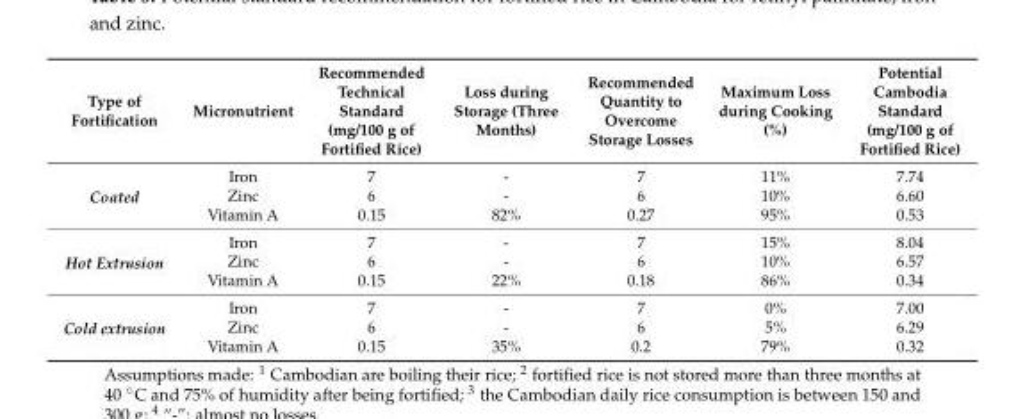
<table><thead><tr><td>Type of Fortification</td><td>Micronutrient</td><td>Recommended Technical Standard (mg/100 g of Fortified Rice)</td><td>Loss during Storage (Three Months)</td><td>Recommended Quantity to Overcome Storage Losses</td><td>Maximum Loss during Cooking (%)</td><td>Potential Cambodia Standard (mg/100 g of Fortified Rice)</td></tr></thead><tbody><tr><td rowspan="3">Coated</td><td>Iron</td><td>7</td><td>-</td><td>7</td><td>11%</td><td>7.74</td></tr><tr><td>Zinc</td><td>6</td><td>-</td><td>6</td><td>10%</td><td>6.60</td></tr><tr><td>Vitamin A</td><td>0.15</td><td>82%</td><td>0.27</td><td>95%</td><td>0.53</td></tr><tr><td rowspan="3">Hot Extrusion</td><td>Iron</td><td>7</td><td>-</td><td>7</td><td>15%</td><td>8.04</td></tr><tr><td>Zinc</td><td>6</td><td>-</td><td>6</td><td>10%</td><td>6.57</td></tr><tr><td>Vitamin A</td><td>0.15</td><td>22%</td><td>0.18</td><td>86%</td><td>0.34</td></tr><tr><td rowspan="3">Cold extrusion</td><td>Iron</td><td>7</td><td>-</td><td>7</td><td>0%</td><td>7.00</td></tr><tr><td>Zinc</td><td>6</td><td>-</td><td>6</td><td>5%</td><td>6.29</td></tr><tr><td>Vitamin A</td><td>0.15</td><td>35%</td><td>0.2</td><td>79%</td><td>0.32</td></tr></tbody></table>